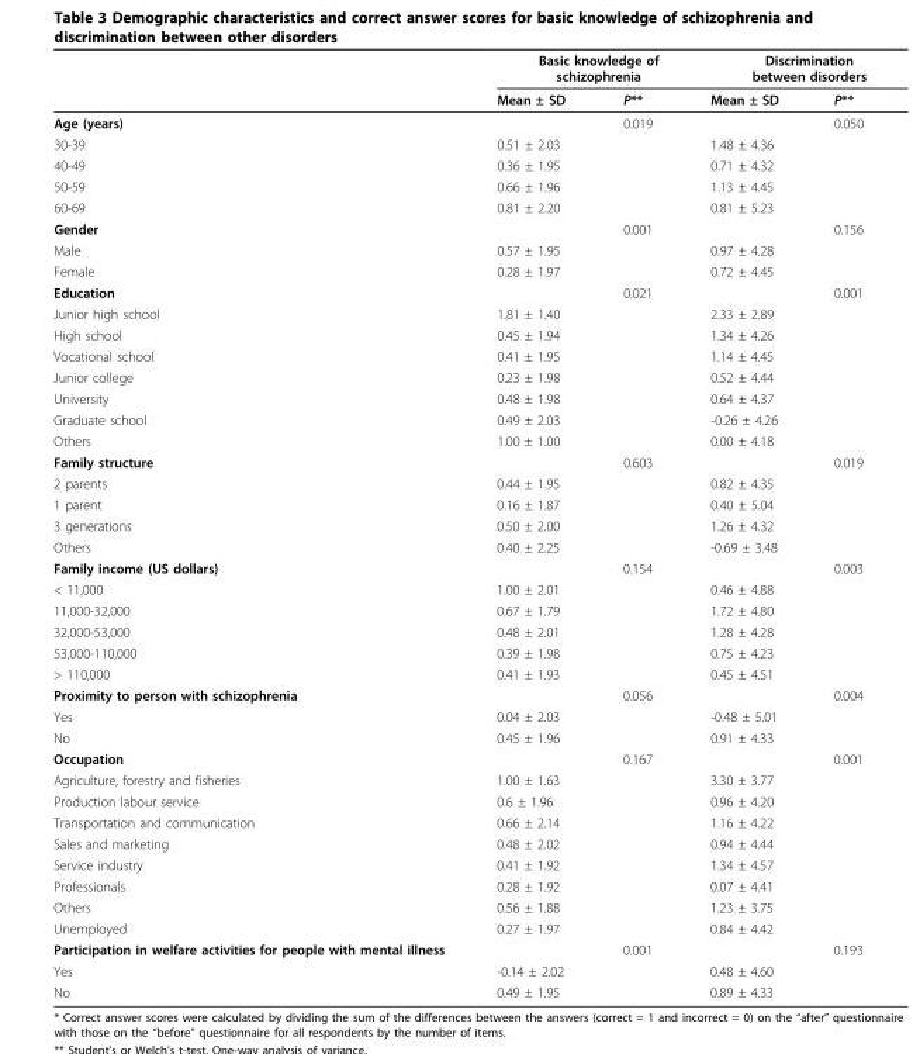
<table><thead><tr><td rowspan="2"></td><td colspan="2">Basic knowledge of schizophrenia</td><td colspan="2">Discrimination between disorders</td></tr><tr><td>Mean ± SD</td><td>P**</td><td>Mean ± SD</td><td>P**</td></tr></thead><tbody><tr><td>Age (years)</td><td></td><td>0.019</td><td></td><td>0.050</td></tr><tr><td>30-39</td><td>0.51 ± 2.03</td><td></td><td>1.48 ± 4.36</td><td></td></tr><tr><td>40-49</td><td>0.36 ± 1.95</td><td></td><td>0.71 ± 4.32</td><td></td></tr><tr><td>50-59</td><td>0.66 ± 1.96</td><td></td><td>1.13 ± 4.45</td><td></td></tr><tr><td>60-69</td><td>0.81 ± 2.20</td><td></td><td>0.81 ± 5.23</td><td></td></tr><tr><td>Gender</td><td></td><td>0.001</td><td></td><td>0.156</td></tr><tr><td>Male</td><td>0.57 ± 1.95</td><td></td><td>0.97 ± 4.28</td><td></td></tr><tr><td>Female</td><td>0.28 ± 1.97</td><td></td><td>0.72 ± 4.45</td><td></td></tr><tr><td>Education</td><td></td><td>0.021</td><td></td><td>0.001</td></tr><tr><td>Junior high school</td><td>1.81 ± 1.40</td><td></td><td>2.33 ± 2.89</td><td></td></tr><tr><td>High school</td><td>0.45 ± 1.94</td><td></td><td>1.34 ± 4.26</td><td></td></tr><tr><td>Vocational school</td><td>0.41 ± 1.95</td><td></td><td>1.14 ± 4.45</td><td></td></tr><tr><td>Junior college</td><td>0.23 ± 1.98</td><td></td><td>0.52 ± 4.44</td><td></td></tr><tr><td>University</td><td>0.48 ± 1.98</td><td></td><td>0.64 ± 4.37</td><td></td></tr><tr><td>Graduate school</td><td>0.49 ± 2.03</td><td></td><td>-0.26 ± 4.26</td><td></td></tr><tr><td>Others</td><td>1.00 ± 1.00</td><td></td><td>0.00 ± 4.18</td><td></td></tr><tr><td>Family structure</td><td></td><td>0.603</td><td></td><td>0.019</td></tr><tr><td>2 parents</td><td>0.44 ± 1.95</td><td></td><td>0.82 ± 4.35</td><td></td></tr><tr><td>1 parent</td><td>0.16 ± 1.87</td><td></td><td>0.40 ± 5.04</td><td></td></tr><tr><td>3 generations</td><td>0.50 ± 2.00</td><td></td><td>1.26 ± 4.32</td><td></td></tr><tr><td>Others</td><td>0.40 ± 2.25</td><td></td><td>-0.69 ± 3.48</td><td></td></tr><tr><td>Family income (US dollars)</td><td></td><td>0.154</td><td></td><td>0.003</td></tr><tr><td>&lt; 11,000</td><td>1.00 ± 2.01</td><td></td><td>0.46 ± 4.88</td><td></td></tr><tr><td>11,000-32,000</td><td>0.67 ± 1.79</td><td></td><td>1.72 ± 4.80</td><td></td></tr><tr><td>32,000-53,000</td><td>0.48 ± 2.01</td><td></td><td>1.28 ± 4.28</td><td></td></tr><tr><td>53,000-110,000</td><td>0.39 ± 1.98</td><td></td><td>0.75 ± 4.23</td><td></td></tr><tr><td>&gt; 110,000</td><td>0.41 ± 1.93</td><td></td><td>0.45 ± 4.51</td><td></td></tr><tr><td>Proximity to person with schizophrenia</td><td></td><td>0.056</td><td></td><td>0.004</td></tr><tr><td>Yes</td><td>0.04 ± 2.03</td><td></td><td>-0.48 ± 5.01</td><td></td></tr><tr><td>No</td><td>0.45 ± 1.96</td><td></td><td>0.91 ± 4.33</td><td></td></tr><tr><td>Occupation</td><td></td><td>0.167</td><td></td><td>0.001</td></tr><tr><td>Agriculture, forestry and fisheries</td><td>1.00 ± 1.63</td><td></td><td>3.30 ± 3.77</td><td></td></tr><tr><td>Production labour service</td><td>0.6 ± 1.96</td><td></td><td>0.96 ± 4.20</td><td></td></tr><tr><td>Transportation and communication</td><td>0.66 ± 2.14</td><td></td><td>1.16 ± 4.22</td><td></td></tr><tr><td>Sales and marketing</td><td>0.48 ± 2.02</td><td></td><td>0.94 ± 4.44</td><td></td></tr><tr><td>Service industry</td><td>0.41 ± 1.92</td><td></td><td>1.34 ± 4.57</td><td></td></tr><tr><td>Professionals</td><td>0.28 ± 1.92</td><td></td><td>0.07 ± 4.41</td><td></td></tr><tr><td>Others</td><td>0.56 ± 1.88</td><td></td><td>1.23 ± 3.75</td><td></td></tr><tr><td>Unemployed</td><td>0.27 ± 1.97</td><td></td><td>0.84 ± 4.42</td><td></td></tr><tr><td>Participation in welfare activities for people with mental illness</td><td></td><td>0.001</td><td></td><td>0.193</td></tr><tr><td>Yes</td><td>-0.14 ± 2.02</td><td></td><td>0.48 ± 4.60</td><td></td></tr><tr><td>No</td><td>0.49 ± 1.95</td><td></td><td>0.89 ± 4.33</td><td></td></tr></tbody></table>